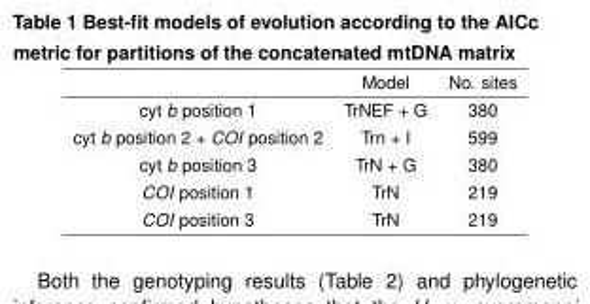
<table><thead><tr><td></td><td>Model</td><td>No. sites</td></tr></thead><tbody><tr><td>cyt b position 1</td><td>TrNEF + G</td><td>380</td></tr><tr><td>cyt b position 2 + COI position 2</td><td>Trn + I</td><td>599</td></tr><tr><td>cyt b position 3</td><td>TrN + G</td><td>380</td></tr><tr><td>COI position 1</td><td>TrN</td><td>219</td></tr><tr><td>COI position 3</td><td>TrN</td><td>219</td></tr></tbody></table>